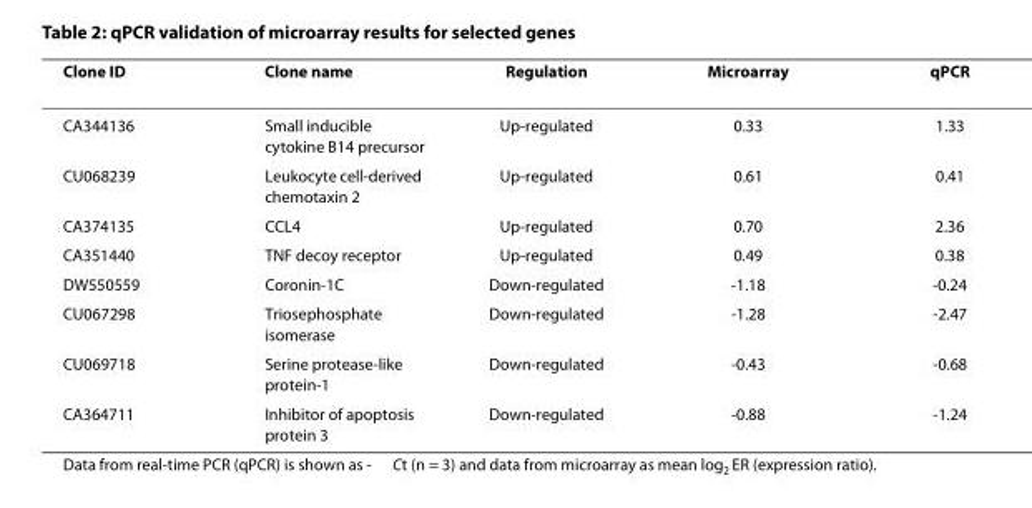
<table><thead><tr><td>Clone ID</td><td>Clone name</td><td>Regulation</td><td>Microarray</td><td>qPCR</td></tr></thead><tbody><tr><td>CA344136</td><td>Small inducible cytokine B14 precursor</td><td>Up-regulated</td><td>0.33</td><td>1.33</td></tr><tr><td>CU068239</td><td>Leukocyte cell-derived chemotaxin 2</td><td>Up-regulated</td><td>0.61</td><td>0.41</td></tr><tr><td>CA374135</td><td>CCL4</td><td>Up-regulated</td><td>0.70</td><td>2.36</td></tr><tr><td>CA351440</td><td>TNF decoy receptor</td><td>Up-regulated</td><td>0.49</td><td>0.38</td></tr><tr><td>DW550559</td><td>Coronin-1C</td><td>Down-regulated</td><td>-1.18</td><td>-0.24</td></tr><tr><td>CU067298</td><td>Triosephosphate isomerase</td><td>Down-regulated</td><td>-1.28</td><td>-2.47</td></tr><tr><td>CU069718</td><td>Serine protease-like protein-1</td><td>Down-regulated</td><td>-0.43</td><td>-0.68</td></tr><tr><td>CA364711</td><td>Inhibitor of apoptosis protein 3</td><td>Down-regulated</td><td>-0.88</td><td>-1.24</td></tr></tbody></table>